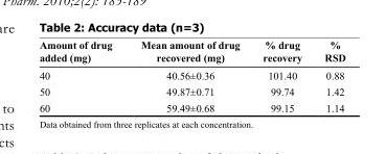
<table><thead><tr><td>Amount of drug added (mg)</td><td>Mean amount of drug recovered (mg)</td><td>% drug recovery</td><td>% RSD</td></tr></thead><tbody><tr><td>40</td><td>40.56±0.36</td><td>101.40</td><td>0.88</td></tr><tr><td>50</td><td>49.87±0.71</td><td>99.74</td><td>1.42</td></tr><tr><td>60</td><td>59.49±0.68</td><td>99.15</td><td>1.14</td></tr></tbody></table>